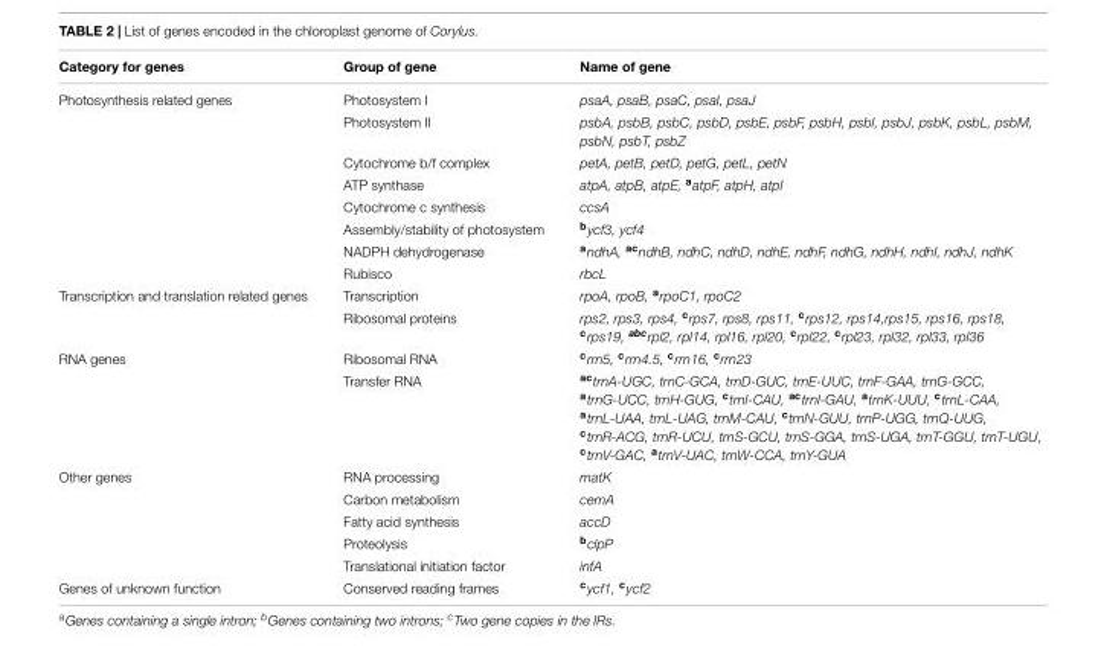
<table><thead><tr><td>Category for genes</td><td>Group of gene</td><td>Name of gene</td></tr></thead><tbody><tr><td rowspan="8">Photosynthesis related genes</td><td>Photosystem I</td><td>psaA, psaB, psaC, psaI, psaJ</td></tr><tr><td>Photosystem II</td><td>psbA, psbB, psbC, psbD, psbE, psbF, psbH, psbI, psbJ, psbK, psbL, psbM, psbN, psbT, psbZ</td></tr><tr><td>Cytochrome b/f complex</td><td>petA, petB, petD, petG, petL, petN</td></tr><tr><td>ATP synthase</td><td>atpA, atpB, atpE, <sup>a</sup>atpF, atpH, atpI</td></tr><tr><td>Cytochrome c synthesis</td><td>ccsA</td></tr><tr><td>Assembly/stability of photosystem</td><td><sup>b</sup>ycf3, ycf4</td></tr><tr><td>NADPH dehydrogenase</td><td><sup>a</sup>ndhA, <sup>ac</sup>ndhB, ndhC, ndhD, ndhE, ndhF, ndhG, ndhH, ndhI, ndhJ, ndhK</td></tr><tr><td>Rubisco</td><td>rbcL</td></tr><tr><td rowspan="2">Transcription and translation related genes</td><td>Transcription</td><td>rpoA, rpoB, <sup>a</sup>rpoC1, rpoC2</td></tr><tr><td>Ribosomal proteins</td><td>rps2, rps3, rps4, <sup>c</sup>rps7, rps8, rps11, <sup>c</sup>rps12, rps14,rps15, rps16, rps18, <sup>c</sup>rps19, <sup>abc</sup>rpl2, rpl14, rpl16, rpl20, <sup>c</sup>rpl22, <sup>c</sup>rpl23, rpl32, rpl33, rpl36</td></tr><tr><td rowspan="2">RNA genes</td><td>Ribosomal RNA</td><td><sup>c</sup>rrn5, <sup>c</sup>rrn4.5, <sup>c</sup>rrn16, <sup>c</sup>rrn23</td></tr><tr><td>Transfer RNA</td><td>actrnA-UGC, trnC-GCA, trnD-GUC, trnE-UUC, trnF-GAA, trnG-GCC, atrnG-UCC, trnH-GUG, ctrnI-CAU, actrnI-GAU, atrnK-UUU, ctrnL-CAA, atrnL-UAA, trnL-UAG, trnM-CAU, ctrnN-GUU, trnP-UGG, trnQ-UUG, ctrnR-ACG, trnR-UCU, trnS-GCU, trnS-GGA, trnS-UGA, trnT-GGU, trnT-UGU, ctrnV-GAC, atrnV-UAC, trnW-CCA, trnY-GUA</td></tr><tr><td rowspan="5">Other genes</td><td>RNA processing</td><td>matK</td></tr><tr><td>Carbon metabolism</td><td>cemA</td></tr><tr><td>Fatty acid synthesis</td><td>accD</td></tr><tr><td>Proteolysis</td><td><sup>b</sup>clpP</td></tr><tr><td>Translational initiation factor</td><td>infA</td></tr><tr><td>Genes of unknown function</td><td>Conserved reading frames</td><td><sup>c</sup>ycf1, <sup>c</sup>ycf2</td></tr></tbody></table>